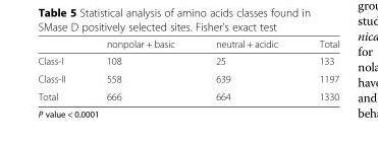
<table><thead><tr><td></td><td>nonpolar + basic</td><td>neutral + acidic</td><td>Total</td></tr></thead><tbody><tr><td>Class-I</td><td>108</td><td>25</td><td>133</td></tr><tr><td>Class-II</td><td>558</td><td>639</td><td>1197</td></tr><tr><td>Total</td><td>666</td><td>664</td><td>1330</td></tr></tbody></table>